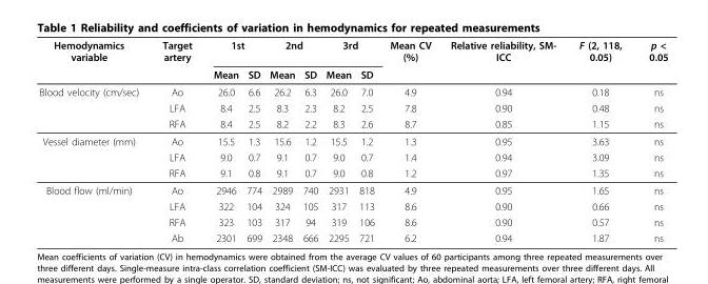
<table><thead><tr><td rowspan="2">Hemodynamics variable</td><td rowspan="2">Target artery</td><td colspan="2">1st</td><td colspan="2">2nd</td><td colspan="2">3rd</td><td rowspan="2">Mean CV (%)</td><td rowspan="2">Relative reliability, SM- ICC</td><td rowspan="2">F (2, 118, 0.05)</td><td rowspan="2">p &lt; 0.05</td></tr><tr><td>Mean</td><td>SD</td><td>Mean</td><td>SD</td><td>Mean</td><td>SD</td></tr></thead><tbody><tr><td rowspan="3">Blood velocity (cm/sec)</td><td>Ao</td><td>26.0</td><td>6.6</td><td>26.2</td><td>6.3</td><td>26.0</td><td>7.0</td><td>4.9</td><td>0.94</td><td>0.18</td><td>ns</td></tr><tr><td>LFA</td><td>8.4</td><td>2.5</td><td>8.3</td><td>2.3</td><td>8.2</td><td>2.5</td><td>7.8</td><td>0.90</td><td>0.48</td><td>ns</td></tr><tr><td>RFA</td><td>8.4</td><td>2.5</td><td>8.2</td><td>2.2</td><td>8.3</td><td>2.6</td><td>8.7</td><td>0.85</td><td>1.15</td><td>ns</td></tr><tr><td rowspan="3">Vessel diameter (mm)</td><td>Ao</td><td>15.5</td><td>1.3</td><td>15.6</td><td>1.2</td><td>15.5</td><td>1.2</td><td>1.3</td><td>0.95</td><td>3.63</td><td>ns</td></tr><tr><td>LFA</td><td>9.0</td><td>0.7</td><td>9.1</td><td>0.7</td><td>9.0</td><td>0.7</td><td>1.4</td><td>0.94</td><td>3.09</td><td>ns</td></tr><tr><td>RFA</td><td>9.1</td><td>0.8</td><td>9.1</td><td>0.7</td><td>9.0</td><td>0.8</td><td>1.2</td><td>0.97</td><td>1.35</td><td>ns</td></tr><tr><td rowspan="4">Blood flow (ml/min)</td><td>Ao</td><td>2946</td><td>774</td><td>2989</td><td>740</td><td>2931</td><td>818</td><td>4.9</td><td>0.95</td><td>1.65</td><td>ns</td></tr><tr><td>LFA</td><td>322</td><td>104</td><td>324</td><td>105</td><td>317</td><td>113</td><td>8.6</td><td>0.90</td><td>0.66</td><td>ns</td></tr><tr><td>RFA</td><td>323</td><td>103</td><td>317</td><td>94</td><td>319</td><td>106</td><td>8.6</td><td>0.90</td><td>0.57</td><td>ns</td></tr><tr><td>Ab</td><td>2301</td><td>699</td><td>2348</td><td>666</td><td>2295</td><td>721</td><td>6.2</td><td>0.94</td><td>1.87</td><td>ns</td></tr></tbody></table>